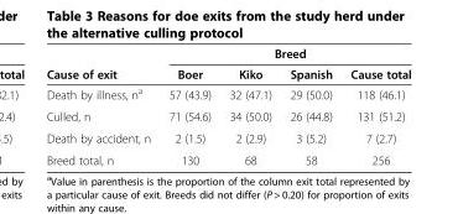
<table><thead><tr><td rowspan="2">Cause of exit</td><td colspan="4">Breed</td></tr><tr><td>Boer</td><td>Kiko</td><td>Spanish</td><td>Cause total</td></tr></thead><tbody><tr><td>Death by illness, n<sup>a</sup></td><td>57 (43.9)</td><td>32 (47.1)</td><td>29 (50.0)</td><td>118 (46.1)</td></tr><tr><td>Culled, n</td><td>71 (54.6)</td><td>34 (50.0)</td><td>26 (44.8)</td><td>131 (51.2)</td></tr><tr><td>Death by accident, n</td><td>2 (1.5)</td><td>2 (2.9)</td><td>3 (5.2)</td><td>7 (2.7)</td></tr><tr><td>Breed total, n</td><td>130</td><td>68</td><td>58</td><td>256</td></tr></tbody></table>